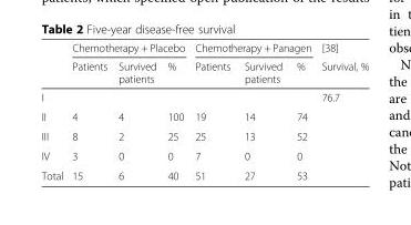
<table><thead><tr><td rowspan="2"></td><td colspan="3">Chemotherapy + Placebo</td><td colspan="3">Chemotherapy + Panagen</td><td rowspan="2">[38] Survival, %</td></tr><tr><td>Patients</td><td>Survived patients</td><td>%</td><td>Patients</td><td>Survived patients</td><td>%</td></tr></thead><tbody><tr><td colspan="7">I</td><td rowspan="3">76.7</td></tr><tr><td>II</td><td>4</td><td>4</td><td>100</td><td>19</td><td>14</td><td>74</td></tr><tr><td>III</td><td>8</td><td>2</td><td>25</td><td>25</td><td>13</td><td>52</td></tr><tr><td>IV</td><td>3</td><td>0</td><td>0</td><td>7</td><td>0</td><td>0</td><td></td></tr><tr><td>Total</td><td>15</td><td>6</td><td>40</td><td>51</td><td>27</td><td>53</td><td></td></tr></tbody></table>